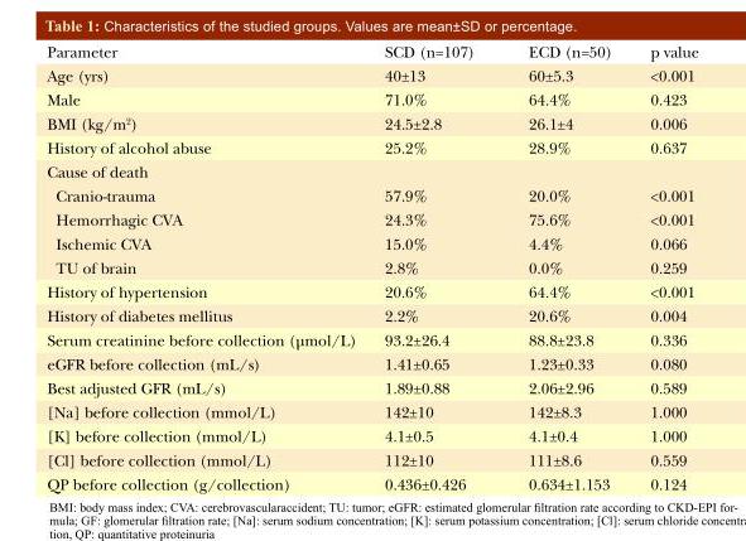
<table><thead><tr><td>Parameter</td><td>SCD (n=107)</td><td>ECD (n=50)</td><td>p value</td></tr></thead><tbody><tr><td>Age (yrs)</td><td>40±13</td><td>60±5.3</td><td>&lt;0.001</td></tr><tr><td>Male</td><td>71.0%</td><td>64.4%</td><td>0.423</td></tr><tr><td>BMI (kg/m<sup>2</sup>)</td><td>24.5±2.8</td><td>26.1±4</td><td>0.006</td></tr><tr><td>History of alcohol abuse</td><td>25.2%</td><td>28.9%</td><td>0.637</td></tr><tr><td colspan="4">Cause of death</td></tr><tr><td>Cranio-trauma</td><td>57.9%</td><td>20.0%</td><td>&lt;0.001</td></tr><tr><td>Hemorrhagic CVA</td><td>24.3%</td><td>75.6%</td><td>&lt;0.001</td></tr><tr><td>Ischemic CVA</td><td>15.0%</td><td>4.4%</td><td>0.066</td></tr><tr><td>TU of brain</td><td>2.8%</td><td>0.0%</td><td>0.259</td></tr><tr><td>History of hypertension</td><td>20.6%</td><td>64.4%</td><td>&lt;0.001</td></tr><tr><td>History of diabetes mellitus</td><td>2.2%</td><td>20.6%</td><td>0.004</td></tr><tr><td>Serum creatinine before collection (µmol/L)</td><td>93.2±26.4</td><td>88.8±23.8</td><td>0.336</td></tr><tr><td>eGFR before collection (mL/s)</td><td>1.41±0.65</td><td>1.23±0.33</td><td>0.080</td></tr><tr><td>Best adjusted GFR (mL/s)</td><td>1.89±0.88</td><td>2.06±2.96</td><td>0.589</td></tr><tr><td>[Na] before collection (mmol/L)</td><td>142±10</td><td>142±8.3</td><td>1.000</td></tr><tr><td>[K] before collection (mmol/L)</td><td>4.1±0.5</td><td>4.1±0.4</td><td>1.000</td></tr><tr><td>[Cl] before collection (mmol/L)</td><td>112±10</td><td>111±8.6</td><td>0.559</td></tr><tr><td>QP before collection (g/collection)</td><td>0.436±0.426</td><td>0.634±1.153</td><td>0.124</td></tr></tbody></table>